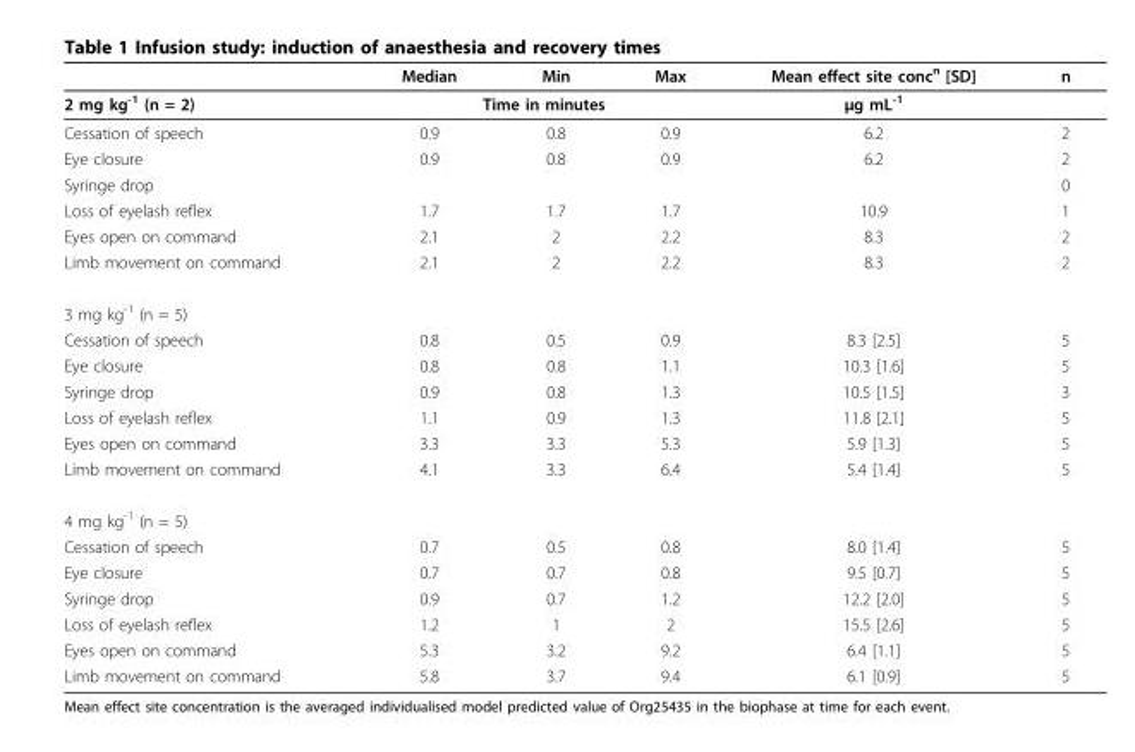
<table><thead><tr><td></td><td>Median</td><td>Min</td><td>Max</td><td>Mean effect site conc<sup>n</sup> [SD]</td><td>n</td></tr></thead><tbody><tr><td>2 mg kg<sup>-1</sup> (n = 2)</td><td colspan="3">Time in minutes</td><td>μg mL<sup>-1</sup></td><td></td></tr><tr><td>Cessation of speech</td><td>0.9</td><td>0.8</td><td>0.9</td><td>6.2</td><td>2</td></tr><tr><td>Eye closure</td><td>0.9</td><td>0.8</td><td>0.9</td><td>6.2</td><td>2</td></tr><tr><td>Syringe drop</td><td></td><td></td><td></td><td></td><td>0</td></tr><tr><td>Loss of eyelash reflex</td><td>1.7</td><td>1.7</td><td>1.7</td><td>10.9</td><td>1</td></tr><tr><td>Eyes open on command</td><td>2.1</td><td>2</td><td>2.2</td><td>8.3</td><td>2</td></tr><tr><td>Limb movement on command</td><td>2.1</td><td>2</td><td>2.2</td><td>8.3</td><td>2</td></tr><tr><td colspan="6">3 mg kg<sup>-1</sup> (n = 5)</td></tr><tr><td>Cessation of speech</td><td>0.8</td><td>0.5</td><td>0.9</td><td>8.3 [2.5]</td><td>5</td></tr><tr><td>Eye closure</td><td>0.8</td><td>0.8</td><td>1.1</td><td>10.3 [1.6]</td><td>5</td></tr><tr><td>Syringe drop</td><td>0.9</td><td>0.8</td><td>1.3</td><td>10.5 [1.5]</td><td>3</td></tr><tr><td>Loss of eyelash reflex</td><td>1.1</td><td>0.9</td><td>1.3</td><td>11.8 [2.1]</td><td>5</td></tr><tr><td>Eyes open on command</td><td>3.3</td><td>3.3</td><td>5.3</td><td>5.9 [1.3]</td><td>5</td></tr><tr><td>Limb movement on command</td><td>4.1</td><td>3.3</td><td>6.4</td><td>5.4 [1.4]</td><td>5</td></tr><tr><td colspan="6">4 mg kg<sup>-1</sup> (n = 5)</td></tr><tr><td>Cessation of speech</td><td>0.7</td><td>0.5</td><td>0.8</td><td>8.0 [1.4]</td><td>5</td></tr><tr><td>Eye closure</td><td>0.7</td><td>0.7</td><td>0.8</td><td>9.5 [0.7]</td><td>5</td></tr><tr><td>Syringe drop</td><td>0.9</td><td>0.7</td><td>1.2</td><td>12.2 [2.0]</td><td>5</td></tr><tr><td>Loss of eyelash reflex</td><td>1.2</td><td>1</td><td>2</td><td>15.5 [2.6]</td><td>5</td></tr><tr><td>Eyes open on command</td><td>5.3</td><td>3.2</td><td>9.2</td><td>6.4 [1.1]</td><td>5</td></tr><tr><td>Limb movement on command</td><td>5.8</td><td>3.7</td><td>9.4</td><td>6.1 [0.9]</td><td>5</td></tr></tbody></table>